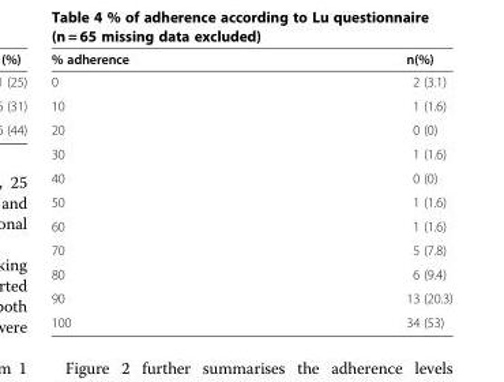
<table><thead><tr><td>% adherence</td><td>n(%)</td></tr></thead><tbody><tr><td>0</td><td>2 (3.1)</td></tr><tr><td>10</td><td>1 (1.6)</td></tr><tr><td>20</td><td>0 (0)</td></tr><tr><td>30</td><td>1 (1.6)</td></tr><tr><td>40</td><td>0 (0)</td></tr><tr><td>50</td><td>1 (1.6)</td></tr><tr><td>60</td><td>1 (1.6)</td></tr><tr><td>70</td><td>5 (7.8)</td></tr><tr><td>80</td><td>6 (9.4)</td></tr><tr><td>90</td><td>13 (20.3)</td></tr><tr><td>100</td><td>34 (53)</td></tr></tbody></table>